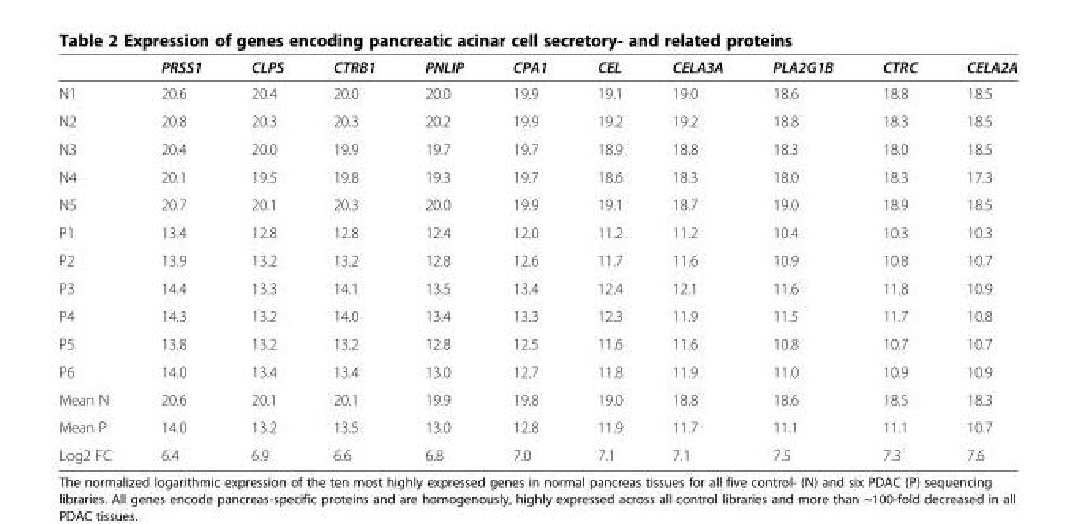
<table><thead><tr><td></td><td>PRSS1</td><td>CLPS</td><td>CTRB1</td><td>PNLIP</td><td>CPA1</td><td>CEL</td><td>CELA3A</td><td>PLA2G1B</td><td>CTRC</td><td>CELA2A</td></tr></thead><tbody><tr><td>N1</td><td>20.6</td><td>20.4</td><td>20.0</td><td>20.0</td><td>19.9</td><td>19.1</td><td>19.0</td><td>18.6</td><td>18.8</td><td>18.5</td></tr><tr><td>N2</td><td>20.8</td><td>20.3</td><td>20.3</td><td>20.2</td><td>19.9</td><td>19.2</td><td>19.2</td><td>18.8</td><td>18.3</td><td>18.5</td></tr><tr><td>N3</td><td>20.4</td><td>20.0</td><td>19.9</td><td>19.7</td><td>19.7</td><td>18.9</td><td>18.8</td><td>18.3</td><td>18.0</td><td>18.5</td></tr><tr><td>N4</td><td>20.1</td><td>19.5</td><td>19.8</td><td>19.3</td><td>19.7</td><td>18.6</td><td>18.3</td><td>18.0</td><td>18.3</td><td>17.3</td></tr><tr><td>N5</td><td>20.7</td><td>20.1</td><td>20.3</td><td>20.0</td><td>19.9</td><td>19.1</td><td>18.7</td><td>19.0</td><td>18.9</td><td>18.5</td></tr><tr><td>P1</td><td>13.4</td><td>12.8</td><td>12.8</td><td>12.4</td><td>12.0</td><td>11.2</td><td>11.2</td><td>10.4</td><td>10.3</td><td>10.3</td></tr><tr><td>P2</td><td>13.9</td><td>13.2</td><td>13.2</td><td>12.8</td><td>12.6</td><td>11.7</td><td>11.6</td><td>10.9</td><td>10.8</td><td>10.7</td></tr><tr><td>P3</td><td>14.4</td><td>13.3</td><td>14.1</td><td>13.5</td><td>13.4</td><td>12.4</td><td>12.1</td><td>11.6</td><td>11.8</td><td>10.9</td></tr><tr><td>P4</td><td>14.3</td><td>13.2</td><td>14.0</td><td>13.4</td><td>13.3</td><td>12.3</td><td>11.9</td><td>11.5</td><td>11.7</td><td>10.8</td></tr><tr><td>P5</td><td>13.8</td><td>13.2</td><td>13.2</td><td>12.8</td><td>12.5</td><td>11.6</td><td>11.6</td><td>10.8</td><td>10.7</td><td>10.7</td></tr><tr><td>P6</td><td>14.0</td><td>13.4</td><td>13.4</td><td>13.0</td><td>12.7</td><td>11.8</td><td>11.9</td><td>11.0</td><td>10.9</td><td>10.9</td></tr><tr><td>Mean N</td><td>20.6</td><td>20.1</td><td>20.1</td><td>19.9</td><td>19.8</td><td>19.0</td><td>18.8</td><td>18.6</td><td>18.5</td><td>18.3</td></tr><tr><td>Mean P</td><td>14.0</td><td>13.2</td><td>13.5</td><td>13.0</td><td>12.8</td><td>11.9</td><td>11.7</td><td>11.1</td><td>11.1</td><td>10.7</td></tr><tr><td>Log2 FC</td><td>6.4</td><td>6.9</td><td>6.6</td><td>6.8</td><td>7.0</td><td>7.1</td><td>7.1</td><td>7.5</td><td>7.3</td><td>7.6</td></tr></tbody></table>